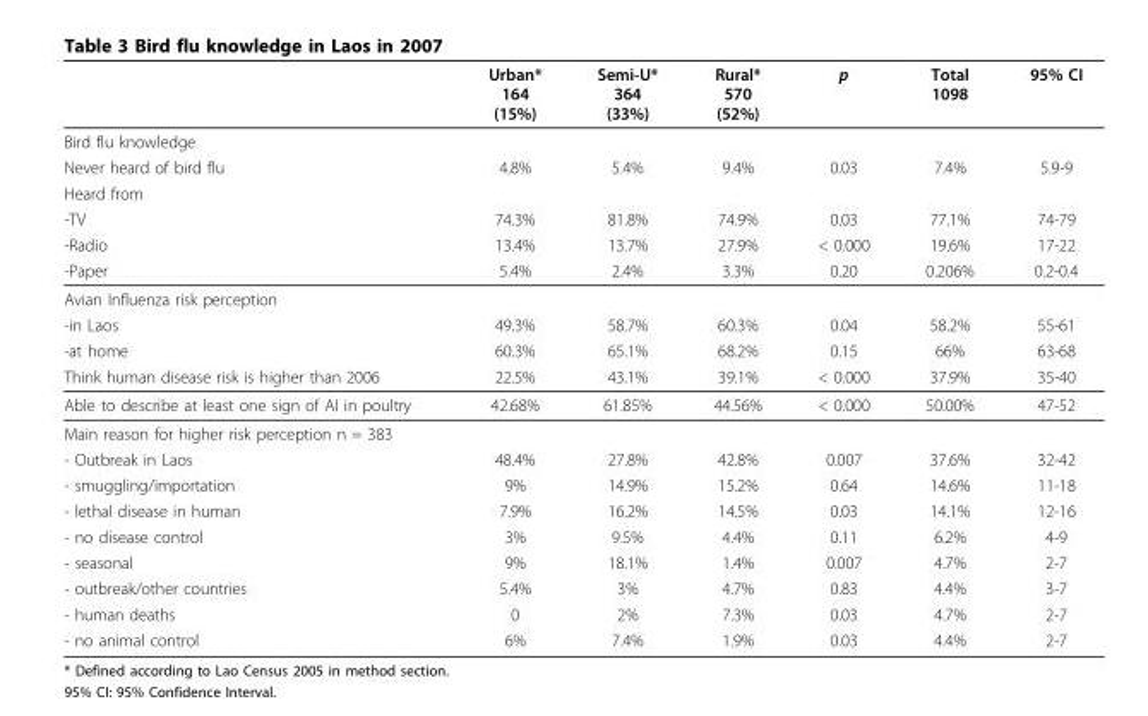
<table><thead><tr><td></td><td>Urban* 164 (15%)</td><td>Semi-U* 364 (33%)</td><td>Rural* 570 (52%)</td><td>p</td><td>Total 1098</td><td>95% CI</td></tr></thead><tbody><tr><td colspan="7">Bird flu knowledge</td></tr><tr><td>Never heard of bird flu</td><td>4.8%</td><td>5.4%</td><td>9.4%</td><td>0.03</td><td>7.4%</td><td>5.9-9</td></tr><tr><td colspan="7">Heard from</td></tr><tr><td>-TV</td><td>74.3%</td><td>81.8%</td><td>74.9%</td><td>0.03</td><td>77.1%</td><td>74-79</td></tr><tr><td>-Radio</td><td>13.4%</td><td>13.7%</td><td>27.9%</td><td>&lt; 0.000</td><td>19.6%</td><td>17-22</td></tr><tr><td>-Paper</td><td>5.4%</td><td>2.4%</td><td>3.3%</td><td>0.20</td><td>0.206%</td><td>0.2-0.4</td></tr><tr><td colspan="7">Avian Influenza risk perception</td></tr><tr><td>-in Laos</td><td>49.3%</td><td>58.7%</td><td>60.3%</td><td>0.04</td><td>58.2%</td><td>55-61</td></tr><tr><td>-at home</td><td>60.3%</td><td>65.1%</td><td>68.2%</td><td>0.15</td><td>66%</td><td>63-68</td></tr><tr><td>Think human disease risk is higher than 2006</td><td>22.5%</td><td>43.1%</td><td>39.1%</td><td>&lt; 0.000</td><td>37.9%</td><td>35-40</td></tr><tr><td>Able to describe at least one sign of AI in poultry</td><td>42.68%</td><td>61.85%</td><td>44.56%</td><td>&lt; 0.000</td><td>50.00%</td><td>47-52</td></tr><tr><td colspan="7">Main reason for higher risk perception n = 383</td></tr><tr><td>- Outbreak in Laos</td><td>48.4%</td><td>27.8%</td><td>42.8%</td><td>0.007</td><td>37.6%</td><td>32-42</td></tr><tr><td>- smuggling/importation</td><td>9%</td><td>14.9%</td><td>15.2%</td><td>0.64</td><td>14.6%</td><td>11-18</td></tr><tr><td>- lethal disease in human</td><td>7.9%</td><td>16.2%</td><td>14.5%</td><td>0.03</td><td>14.1%</td><td>12-16</td></tr><tr><td>- no disease control</td><td>3%</td><td>9.5%</td><td>4.4%</td><td>0.11</td><td>6.2%</td><td>4-9</td></tr><tr><td>- seasonal</td><td>9%</td><td>18.1%</td><td>1.4%</td><td>0.007</td><td>4.7%</td><td>2-7</td></tr><tr><td>- outbreak/other countries</td><td>5.4%</td><td>3%</td><td>4.7%</td><td>0.83</td><td>4.4%</td><td>3-7</td></tr><tr><td>- human deaths</td><td>0</td><td>2%</td><td>7.3%</td><td>0.03</td><td>4.7%</td><td>2-7</td></tr><tr><td>- no animal control</td><td>6%</td><td>7.4%</td><td>1.9%</td><td>0.03</td><td>4.4%</td><td>2-7</td></tr></tbody></table>